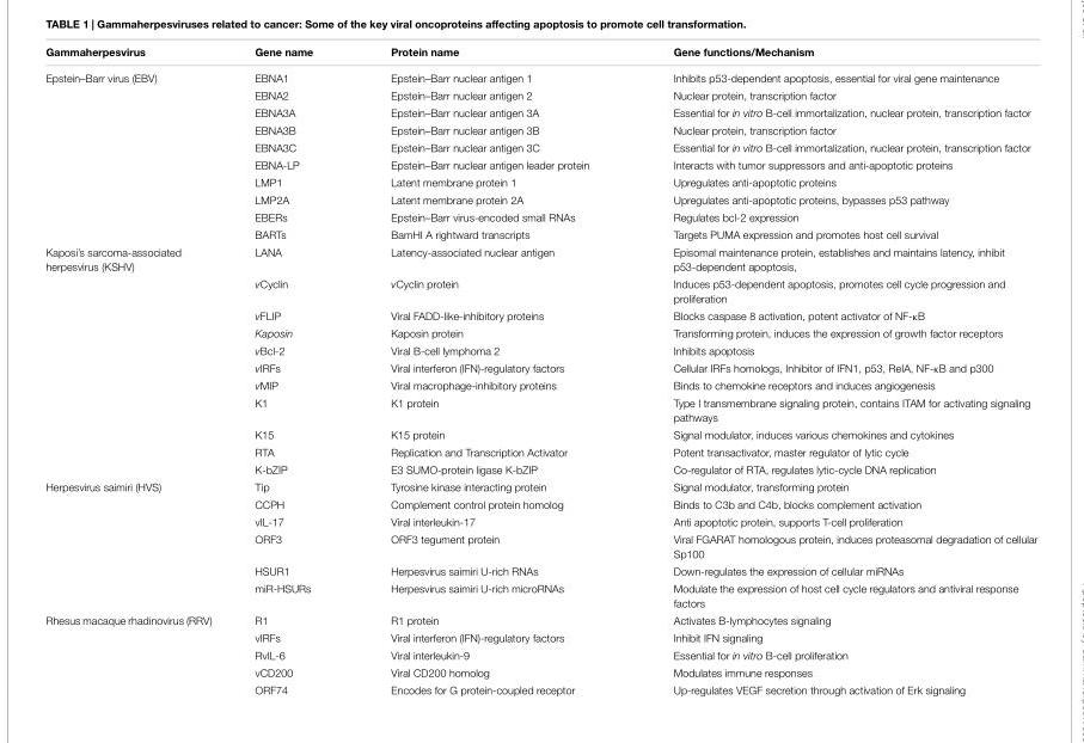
<table><thead><tr><td>Gammaherpesvirus</td><td>Gene name</td><td>Protein name</td><td>Gene functions/Mechanism</td></tr></thead><tbody><tr><td rowspan="10">Epstein–Barr virus (EBV)</td><td>EBNA1</td><td>Epstein–Barr nuclear antigen 1</td><td>Inhibits p53-dependent apoptosis, essential for viral gene maintenance</td></tr><tr><td>EBNA2</td><td>Epstein–Barr nuclear antigen 2</td><td>Nuclear protein, transcription factor</td></tr><tr><td>EBNA3A</td><td>Epstein–Barr nuclear antigen 3A</td><td>Essential for in vitro B-cell immortalization, nuclear protein, transcription factor</td></tr><tr><td>EBNA3B</td><td>Epstein–Barr nuclear antigen 3B</td><td>Nuclear protein, transcription factor</td></tr><tr><td>EBNA3C</td><td>Epstein–Barr nuclear antigen 3C</td><td>Essential for in vitro B-cell immortalization, nuclear protein, transcription factor</td></tr><tr><td>EBNA-LP</td><td>Epstein–Barr nuclear antigen leader protein</td><td>Interacts with tumor suppressors and anti-apoptotic proteins</td></tr><tr><td>LMP1</td><td>Latent membrane protein 1</td><td>Upregulates anti-apoptotic proteins</td></tr><tr><td>LMP2A</td><td>Latent membrane protein 2A</td><td>Upregulates anti-apoptotic proteins, bypasses p53 pathway</td></tr><tr><td>EBERs</td><td>Epstein–Barr virus-encoded small RNAs</td><td>Regulates bcl-2 expression</td></tr><tr><td>BARTs</td><td>BamHI A rightward transcripts</td><td>Targets PUMA expression and promotes host cell survival</td></tr><tr><td rowspan="11">Kaposi’s sarcoma-associated herpesvirus (KSHV)</td><td>LANA</td><td>Latency-associated nuclear antigen</td><td>Episomal maintenance protein, establishes and maintains latency, inhibit p53-dependent apoptosis,</td></tr><tr><td>vCyclin</td><td>vCyclin protein</td><td>Induces p53-dependent apoptosis, promotes cell cycle progression and proliferation</td></tr><tr><td>vFLIP</td><td>Viral FADD-like-inhibitory proteins</td><td>Blocks caspase 8 activation, potent activator of NF-κB</td></tr><tr><td>Kaposin</td><td>Kaposin protein</td><td>Transforming protein, induces the expression of growth factor receptors</td></tr><tr><td>vBcl-2</td><td>Viral B-cell lymphoma 2</td><td>Inhibits apoptosis</td></tr><tr><td>vIRFs</td><td>Viral interferon (IFN)-regulatory factors</td><td>Cellular IRFs homologs, Inhibitor of IFN1, p53, ReIA, NF-κB and p300</td></tr><tr><td>vMIP</td><td>Viral macrophage-inhibitory proteins</td><td>Binds to chemokine receptors and induces angiogenesis</td></tr><tr><td>K1</td><td>K1 protein</td><td>Type I transmembrane signaling protein, contains ITAM for activating signaling pathways</td></tr><tr><td>K15</td><td>K15 protein</td><td>Signal modulator, induces various chemokines and cytokines</td></tr><tr><td>RTA</td><td>Replication and Transcription Activator</td><td>Potent transactivator, master regulator of lytic cycle</td></tr><tr><td>K-bZIP</td><td>E3 SUMO-protein ligase K-bZIP</td><td>Co-regulator of RTA, regulates lytic-cycle DNA replication</td></tr><tr><td rowspan="6">Herpesvirus saimiri (HVS)</td><td>Tip</td><td>Tyrosine kinase interacting protein</td><td>Signal modulator, transforming protein</td></tr><tr><td>CCPH</td><td>Complement control protein homolog</td><td>Binds to C3b and C4b, blocks complement activation</td></tr><tr><td>vIL-17</td><td>Viral interleukin-17</td><td>Anti apoptotic protein, supports T-cell proliferation</td></tr><tr><td>ORF3</td><td>ORF3 tegument protein</td><td>Viral FGARAT homologous protein, induces proteasomal degradation of cellular Sp100</td></tr><tr><td>HSUR1</td><td>Herpesvirus saimiri U-rich RNAs</td><td>Down-regulates the expression of cellular miRNAs</td></tr><tr><td>miR-HSURs</td><td>Herpesvirus saimiri U-rich microRNAs</td><td>Modulate the expression of host cell cycle regulators and antiviral response factors</td></tr><tr><td rowspan="5">Rhesus macaque rhadinovirus (RRV)</td><td>R1</td><td>R1 protein</td><td>Activates B-lymphocytes signaling</td></tr><tr><td>vIRFs</td><td>Viral interferon (IFN)-regulatory factors</td><td>Inhibit IFN signaling</td></tr><tr><td>RvIL-6</td><td>Viral interleukin-9</td><td>Essential for in vitro B-cell proliferation</td></tr><tr><td>vCD200</td><td>Viral CD200 homolog</td><td>Modulates immune responses</td></tr><tr><td>ORF74</td><td>Encodes for G protein-coupled receptor</td><td>Up-regulates VEGF secretion through activation of Erk signaling</td></tr></tbody></table>